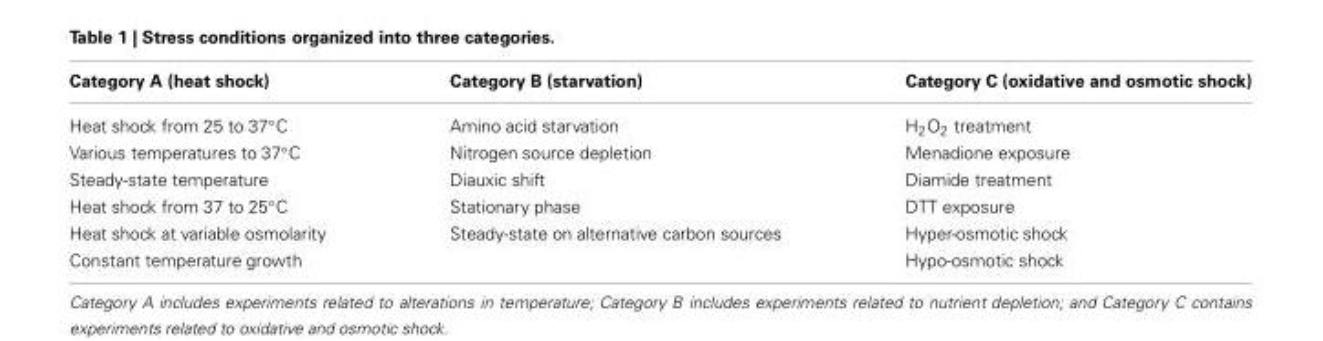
<table><thead><tr><td>Category A (heat shock)</td><td>Category B (starvation)</td><td>Category C (oxidative and osmotic shock)</td></tr></thead><tbody><tr><td>Heat shock from 25 to 37◦C</td><td>Amino acid starvation</td><td>H<sub>2</sub>O<sub>2</sub> treatment</td></tr><tr><td>Various temperatures to 37◦C</td><td>Nitrogen source depletion</td><td>Menadione exposure</td></tr><tr><td>Steady-state temperature</td><td>Diauxic shift</td><td>Diamide treatment</td></tr><tr><td>Heat shock from 37 to 25◦C</td><td>Stationary phase</td><td>DTT exposure</td></tr><tr><td>Heat shock at variable osmolarity</td><td>Steady-state on alternative carbon sources</td><td>Hyper-osmotic shock</td></tr><tr><td>Constant temperature growth</td><td></td><td>Hypo-osmotic shock</td></tr></tbody></table>